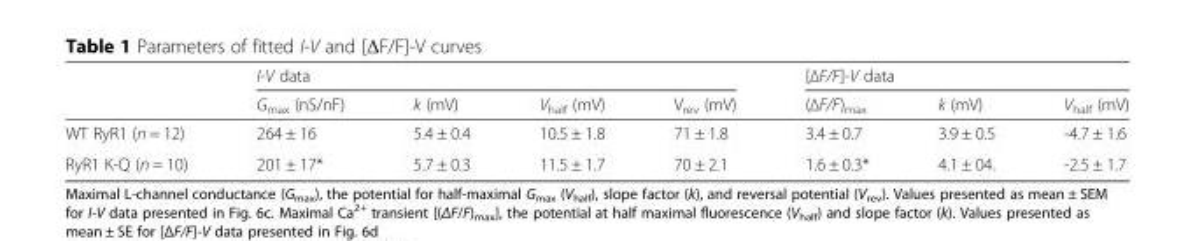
<table><thead><tr><td rowspan="2"></td><td colspan="3">I-V data</td><td rowspan="2">V<sub>rev</sub> (mV)</td><td colspan="3">[ΔF/F]-V data</td></tr><tr><td>G<sub>max</sub> (nS/nF)</td><td>k (mV)</td><td>V<sub>half</sub> (mV)</td><td>(ΔF/F)max</td><td>k (mV)</td><td>V<sub>half</sub> (mV)</td></tr></thead><tbody><tr><td>WT RyR1 (n = 12)</td><td>264 ± 16</td><td>5.4 ± 0.4</td><td>10.5 ± 1.8</td><td>71 ± 1.8</td><td>3.4 ± 0.7</td><td>3.9 ± 0.5</td><td>-4.7 ± 1.6</td></tr><tr><td>RyR1 K-Q (n = 10)</td><td>201 ± 17*</td><td>5.7 ± 0.3</td><td>11.5 ± 1.7</td><td>70 ± 2.1</td><td>1.6 ± 0.3*</td><td>4.1 ± 04.</td><td>-2.5 ± 1.7</td></tr></tbody></table>